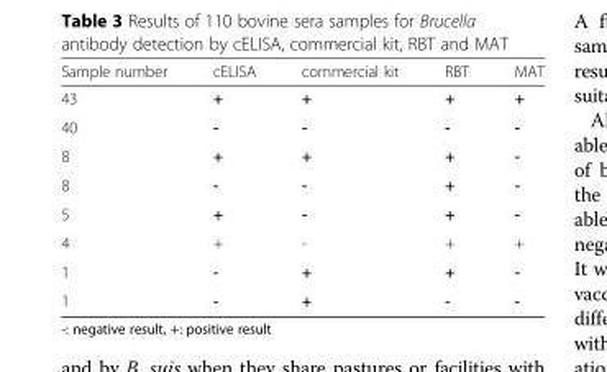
<table><thead><tr><td>Sample number</td><td>cELISA</td><td>commercial kit</td><td>RBT</td><td>MAT</td></tr></thead><tbody><tr><td>43</td><td>+</td><td>+</td><td>+</td><td>+</td></tr><tr><td>40</td><td>-</td><td>-</td><td>-</td><td>-</td></tr><tr><td>8</td><td>+</td><td>+</td><td>+</td><td>-</td></tr><tr><td>8</td><td>-</td><td>-</td><td>+</td><td>-</td></tr><tr><td>5</td><td>+</td><td>-</td><td>+</td><td>-</td></tr><tr><td>4</td><td>+</td><td>-</td><td>+</td><td>+</td></tr><tr><td>1</td><td>-</td><td>+</td><td>+</td><td>-</td></tr><tr><td>1</td><td>-</td><td>+</td><td>-</td><td>-</td></tr></tbody></table>